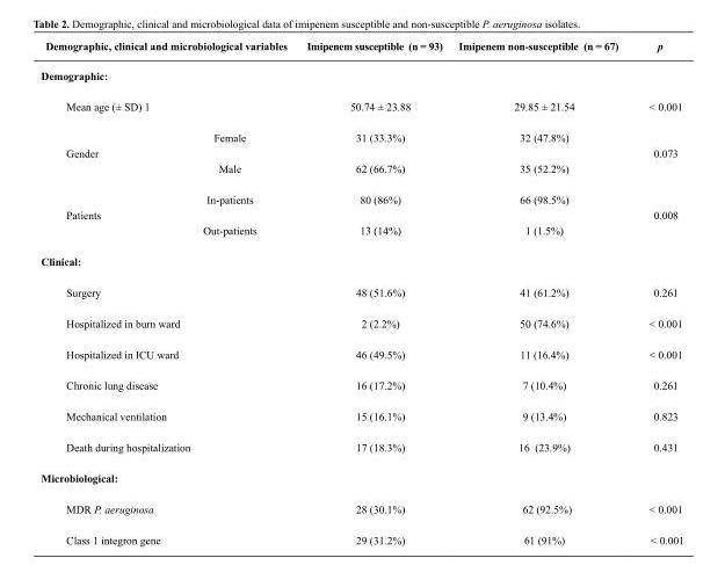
<table><thead><tr><td colspan="2">Demographic, clinical and microbiological variables</td><td rowspan="2">Imipenem susceptible (n = 93)</td><td rowspan="2">Imipenem non-susceptible (n = 67)</td><td rowspan="2">p</td></tr><tr><td>Demographic:</td><td></td></tr></thead><tbody><tr><td>Mean age (± SD) 1</td><td></td><td>50.74 ± 23.88</td><td>29.85 ± 21.54</td><td>&lt; 0.001</td></tr><tr><td rowspan="2">Gender</td><td>Female</td><td>31 (33.3%)</td><td>32 (47.8%)</td><td rowspan="2">0.073</td></tr><tr><td>Male</td><td>62 (66.7%)</td><td>35 (52.2%)</td></tr><tr><td rowspan="2">Patients</td><td>In-patients</td><td>80 (86%)</td><td>66 (98.5%)</td><td rowspan="2">0.008</td></tr><tr><td>Out-patients</td><td>13 (14%)</td><td>1 (1.5%)</td></tr><tr><td colspan="5">Clinical:</td></tr><tr><td>Surgery</td><td></td><td>48 (51.6%)</td><td>41 (61.2%)</td><td>0.261</td></tr><tr><td>Hospitalized in burn ward</td><td></td><td>2 (2.2%)</td><td>50 (74.6%)</td><td>&lt; 0.001</td></tr><tr><td>Hospitalized in ICU ward</td><td></td><td>46 (49.5%)</td><td>11 (16.4%)</td><td>&lt; 0.001</td></tr><tr><td>Chronic lung disease</td><td></td><td>16 (17.2%)</td><td>7 (10.4%)</td><td>0.261</td></tr><tr><td>Mechanical ventilation</td><td></td><td>15 (16.1%)</td><td>9 (13.4%)</td><td>0.823</td></tr><tr><td>Death during hospitalization</td><td></td><td>17 (18.3%)</td><td>16 (23.9%)</td><td>0.431</td></tr><tr><td colspan="5">Microbiological:</td></tr><tr><td>MDR P. aeruginosa</td><td></td><td>28 (30.1%)</td><td>62 (92.5%)</td><td>&lt; 0.001</td></tr><tr><td>Class 1 integron gene</td><td></td><td>29 (31.2%)</td><td>61 (91%)</td><td>&lt; 0.001</td></tr></tbody></table>